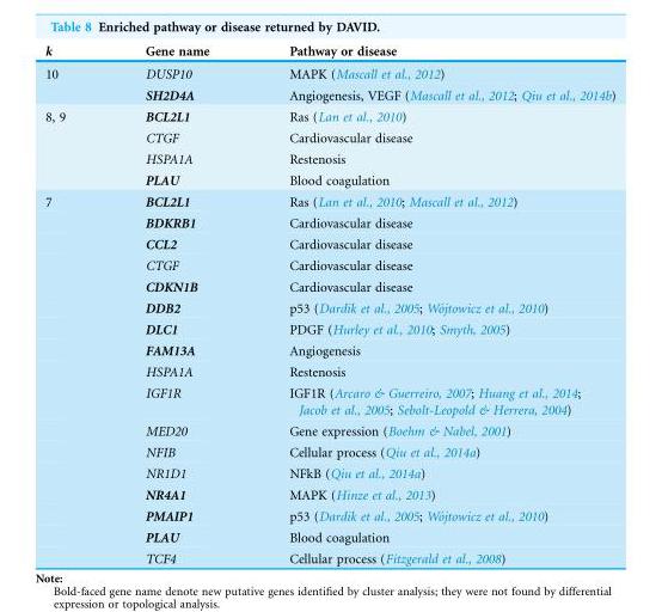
<table><thead><tr><td>k</td><td>Gene name</td><td>Pathway or disease</td></tr></thead><tbody><tr><td rowspan="2">10</td><td>DUSP10</td><td>MAPK (Mascall et al., 2012)</td></tr><tr><td>SH2D4A</td><td>Angiogenesis, VEGF (Mascall et al., 2012; Qiu et al., 2014b)</td></tr><tr><td rowspan="4">8, 9</td><td>BCL2L1</td><td>Ras (Lan et al., 2010)</td></tr><tr><td>CTGF</td><td>Cardiovascular disease</td></tr><tr><td>HSPA1A</td><td>Restenosis</td></tr><tr><td>PLAU</td><td>Blood coagulation</td></tr><tr><td rowspan="17">7</td><td>BCL2L1</td><td>Ras (Lan et al., 2010; Mascall et al., 2012)</td></tr><tr><td>BDKRB1</td><td>Cardiovascular disease</td></tr><tr><td>CCL2</td><td>Cardiovascular disease</td></tr><tr><td>CTGF</td><td>Cardiovascular disease</td></tr><tr><td>CDKN1B</td><td>Cardiovascular disease</td></tr><tr><td>DDB2</td><td>p53 (Dardik et al., 2005; Wo´jtowicz et al., 2010)</td></tr><tr><td>DLC1</td><td>PDGF (Hurley et al., 2010; Smyth, 2005)</td></tr><tr><td>FAM13A</td><td>Angiogenesis</td></tr><tr><td>HSPA1A</td><td>Restenosis</td></tr><tr><td>IGF1R</td><td>IGF1R (Arcaro &amp; Guerreiro, 2007; Huang et al., 2014; Jacob et al., 2005; Sebolt-Leopold &amp; Herrera, 2004)</td></tr><tr><td>MED20</td><td>Gene expression (Boehm &amp; Nabel, 2001)</td></tr><tr><td>NFIB</td><td>Cellular process (Qiu et al., 2014a)</td></tr><tr><td>NR1D1</td><td>NFkB (Qiu et al., 2014a)</td></tr><tr><td>NR4A1</td><td>MAPK (Hinze et al., 2013)</td></tr><tr><td>PMAIP1</td><td>p53 (Dardik et al., 2005; Wo´jtowicz et al., 2010)</td></tr><tr><td>PLAU</td><td>Blood coagulation</td></tr><tr><td>TCF4</td><td>Cellular process (Fitzgerald et al., 2008)</td></tr></tbody></table>